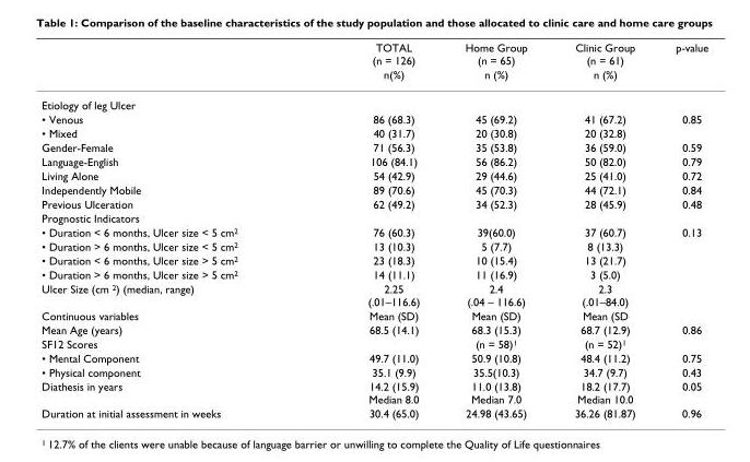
<table><thead><tr><td rowspan="2"></td><td rowspan="2">TOTAL (n = 126) n(%)</td><td rowspan="2">Home Group (n = 65) n (%)</td><td rowspan="2">Clinic Group (n = 61) n (%)</td><td rowspan="2">p-value</td></tr><tr></tr></thead><tbody><tr><td colspan="5">Etiology of leg Ulcer</td></tr><tr><td>• Venous</td><td>86 (68.3)</td><td>45 (69.2)</td><td>41 (67.2)</td><td>0.85</td></tr><tr><td>• Mixed</td><td>40 (31.7)</td><td>20 (30.8)</td><td>20 (32.8)</td><td></td></tr><tr><td>Gender-Female</td><td>71 (56.3)</td><td>35 (53.8)</td><td>36 (59.0)</td><td>0.59</td></tr><tr><td>Language-English</td><td>106 (84.1)</td><td>56 (86.2)</td><td>50 (82.0)</td><td>0.79</td></tr><tr><td>Living Alone</td><td>54 (42.9)</td><td>29 (44.6)</td><td>25 (41.0)</td><td>0.72</td></tr><tr><td>Independently Mobile</td><td>89 (70.6)</td><td>45 (70.3)</td><td>44 (72.1)</td><td>0.84</td></tr><tr><td>Previous Ulceration</td><td>62 (49.2)</td><td>34 (52.3)</td><td>28 (45.9)</td><td>0.48</td></tr><tr><td colspan="5">Prognostic Indicators</td></tr><tr><td>• Duration &lt; 6 months, Ulcer size &lt; 5 cm<sup>2</sup></td><td>76 (60.3)</td><td>39(60.0)</td><td>37 (60.7)</td><td>0.13</td></tr><tr><td>• Duration &gt; 6 months, Ulcer size &lt; 5 cm<sup>2</sup></td><td>13 (10.3)</td><td>5 (7.7)</td><td>8 (13.3)</td><td></td></tr><tr><td>• Duration &lt; 6 months, Ulcer size &gt; 5 cm<sup>2</sup></td><td>23 (18.3)</td><td>10 (15.4)</td><td>13 (21.7)</td><td></td></tr><tr><td>• Duration &gt; 6 months, Ulcer size &gt; 5 cm<sup>2</sup></td><td>14 (11.1)</td><td>11 (16.9)</td><td>3 (5.0)</td><td></td></tr><tr><td>Ulcer Size (cm <sup>2</sup>) (median, range)</td><td>2.25 (.01–116.6)</td><td>2.4 (.04 – 116.6)</td><td>2.3 (.01–84.0)</td><td></td></tr><tr><td>Continuous variables</td><td>Mean (SD)</td><td>Mean (SD)</td><td>Mean (SD</td><td></td></tr><tr><td>Mean Age (years)</td><td>68.5 (14.1)</td><td>68.3 (15.3)</td><td>68.7 (12.9)</td><td>0.86</td></tr><tr><td>SF12 Scores</td><td></td><td>(n = 58)<sup>1</sup></td><td>(n = 52)<sup>1</sup></td><td></td></tr><tr><td>• Mental Component</td><td>49.7 (11.0)</td><td>50.9 (10.8)</td><td>48.4 (11.2)</td><td>0.75</td></tr><tr><td>• Physical component</td><td>35.1 (9.9)</td><td>35.5(10.3)</td><td>34.7 (9.7)</td><td>0.43</td></tr><tr><td>Diathesis in years</td><td>14.2 (15.9) Median 8.0</td><td>11.0 (13.8) Median 7.0</td><td>18.2 (17.7) Median 10.0</td><td>0.05</td></tr><tr><td>Duration at initial assessment in weeks</td><td>30.4 (65.0)</td><td>24.98 (43.65)</td><td>36.26 (81.87)</td><td>0.96</td></tr></tbody></table>